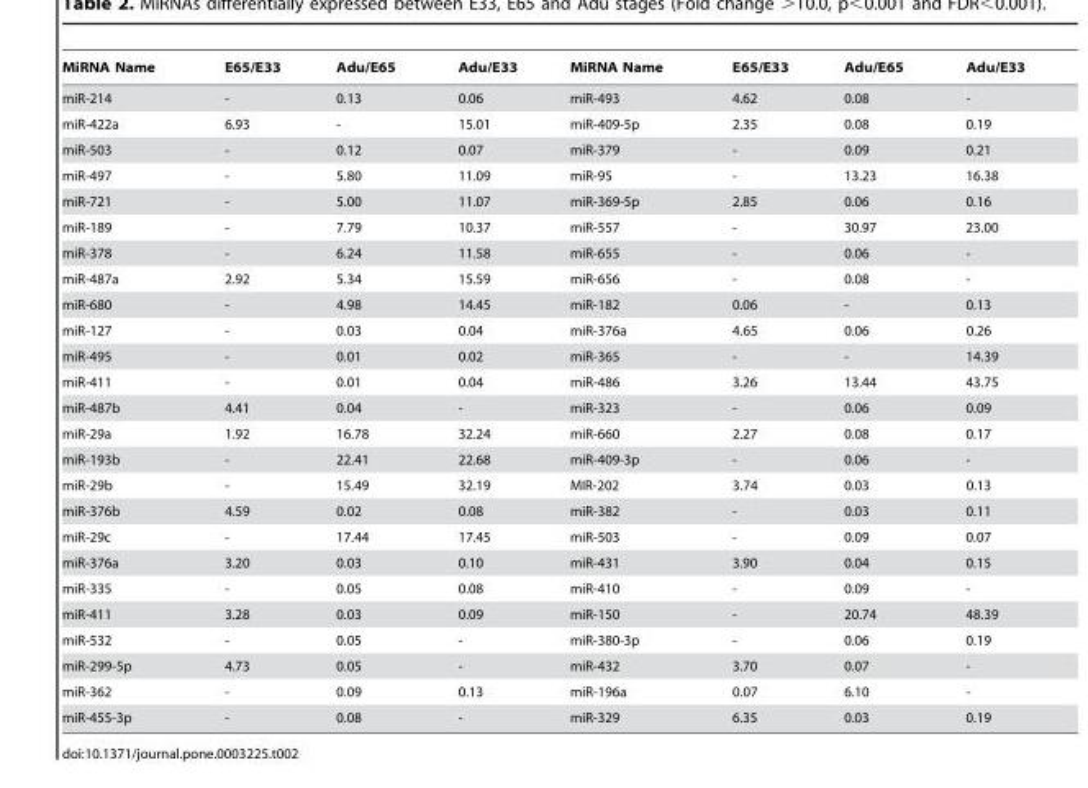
<table><thead><tr><td>MiRNA Name</td><td>E65/E33</td><td>Adu/E65</td><td>Adu/E33</td><td>MiRNA Name</td><td>E65/E33</td><td>Adu/E65</td><td>Adu/E33</td></tr></thead><tbody><tr><td>miR-214</td><td>-</td><td>0.13</td><td>0.06</td><td>miR-493</td><td>4.62</td><td>0.08</td><td>-</td></tr><tr><td>miR-422a</td><td>6.93</td><td>-</td><td>15.01</td><td>miR-409-5p</td><td>2.35</td><td>0.08</td><td>0.19</td></tr><tr><td>miR-503</td><td>-</td><td>0.12</td><td>0.07</td><td>miR-379</td><td>-</td><td>0.09</td><td>0.21</td></tr><tr><td>miR-497</td><td>-</td><td>5.80</td><td>11.09</td><td>miR-95</td><td>-</td><td>13.23</td><td>16.38</td></tr><tr><td>miR-721</td><td>-</td><td>5.00</td><td>11.07</td><td>miR-369-5p</td><td>2.85</td><td>0.06</td><td>0.16</td></tr><tr><td>miR-189</td><td>-</td><td>7.79</td><td>10.37</td><td>miR-557</td><td>-</td><td>30.97</td><td>23.00</td></tr><tr><td>miR-378</td><td>-</td><td>6.24</td><td>11.58</td><td>miR-655</td><td>-</td><td>0.06</td><td>-</td></tr><tr><td>miR-487a</td><td>2.92</td><td>5.34</td><td>15.59</td><td>miR-656</td><td>-</td><td>0.08</td><td>-</td></tr><tr><td>miR-680</td><td>-</td><td>4.98</td><td>14.45</td><td>miR-182</td><td>0.06</td><td>-</td><td>0.13</td></tr><tr><td>miR-127</td><td>-</td><td>0.03</td><td>0.04</td><td>miR-376a</td><td>4.65</td><td>0.06</td><td>0.26</td></tr><tr><td>miR-495</td><td>-</td><td>0.01</td><td>0.02</td><td>miR-365</td><td>-</td><td>-</td><td>14.39</td></tr><tr><td>miR-411</td><td>-</td><td>0.01</td><td>0.04</td><td>miR-486</td><td>3.26</td><td>13.44</td><td>43.75</td></tr><tr><td>miR-487b</td><td>4.41</td><td>0.04</td><td>-</td><td>miR-323</td><td>-</td><td>0.06</td><td>0.09</td></tr><tr><td>miR-29a</td><td>1.92</td><td>16.78</td><td>32.24</td><td>miR-660</td><td>2.27</td><td>0.08</td><td>0.17</td></tr><tr><td>miR-193b</td><td>-</td><td>22.41</td><td>22.68</td><td>miR-409-3p</td><td>-</td><td>0.06</td><td>-</td></tr><tr><td>miR-29b</td><td>-</td><td>15.49</td><td>32.19</td><td>MIR-202</td><td>3.74</td><td>0.03</td><td>0.13</td></tr><tr><td>miR-376b</td><td>4.59</td><td>0.02</td><td>0.08</td><td>miR-382</td><td>-</td><td>0.03</td><td>0.11</td></tr><tr><td>miR-29c</td><td>-</td><td>17.44</td><td>17.45</td><td>miR-503</td><td>-</td><td>0.09</td><td>0.07</td></tr><tr><td>miR-376a</td><td>3.20</td><td>0.03</td><td>0.10</td><td>miR-431</td><td>3.90</td><td>0.04</td><td>0.15</td></tr><tr><td>miR-335</td><td>-</td><td>0.05</td><td>0.08</td><td>miR-410</td><td>-</td><td>0.09</td><td>-</td></tr><tr><td>miR-411</td><td>3.28</td><td>0.03</td><td>0.09</td><td>miR-150</td><td>-</td><td>20.74</td><td>48.39</td></tr><tr><td>miR-532</td><td>-</td><td>0.05</td><td>-</td><td>miR-380-3p</td><td>-</td><td>0.06</td><td>0.19</td></tr><tr><td>miR-299-5p</td><td>4.73</td><td>0.05</td><td>-</td><td>miR-432</td><td>3.70</td><td>0.07</td><td>-</td></tr><tr><td>miR-362</td><td>-</td><td>0.09</td><td>0.13</td><td>miR-196a</td><td>0.07</td><td>6.10</td><td>-</td></tr><tr><td>miR-455-3p</td><td>-</td><td>0.08</td><td>-</td><td>miR-329</td><td>6.35</td><td>0.03</td><td>0.19</td></tr></tbody></table>